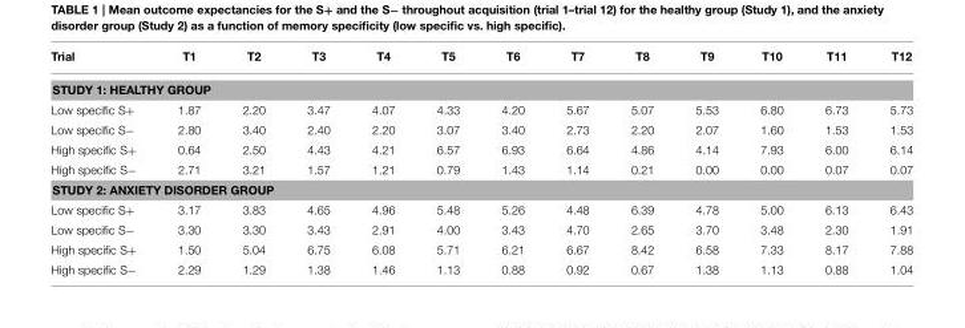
<table><thead><tr><td>Trial</td><td>T1</td><td>T2</td><td>T3</td><td>T4</td><td>T5</td><td>T6</td><td>T7</td><td>T8</td><td>T9</td><td>T10</td><td>T11</td><td>T12</td></tr></thead><tbody><tr><td colspan="13">STUDY 1: HEALTHY GROUP</td></tr><tr><td>Low specific S+</td><td>1.87</td><td>2.20</td><td>3.47</td><td>4.07</td><td>4.33</td><td>4.20</td><td>5.67</td><td>5.07</td><td>5.53</td><td>6.80</td><td>6.73</td><td>5.73</td></tr><tr><td>Low specific S−</td><td>2.80</td><td>3.40</td><td>2.40</td><td>2.20</td><td>3.07</td><td>3.40</td><td>2.73</td><td>2.20</td><td>2.07</td><td>1.60</td><td>1.53</td><td>1.53</td></tr><tr><td>High specific S+</td><td>0.64</td><td>2.50</td><td>4.43</td><td>4.21</td><td>6.57</td><td>6.93</td><td>6.64</td><td>4.86</td><td>4.14</td><td>7.93</td><td>6.00</td><td>6.14</td></tr><tr><td>High specific S−</td><td>2.71</td><td>3.21</td><td>1.57</td><td>1.21</td><td>0.79</td><td>1.43</td><td>1.14</td><td>0.21</td><td>0.00</td><td>0.00</td><td>0.07</td><td>0.07</td></tr><tr><td colspan="13">STUDY 2: ANXIETY DISORDER GROUP</td></tr><tr><td>Low specific S+</td><td>3.17</td><td>3.83</td><td>4.65</td><td>4.96</td><td>5.48</td><td>5.26</td><td>4.48</td><td>6.39</td><td>4.78</td><td>5.00</td><td>6.13</td><td>6.43</td></tr><tr><td>Low specific S−</td><td>3.30</td><td>3.30</td><td>3.43</td><td>2.91</td><td>4.00</td><td>3.43</td><td>4.70</td><td>2.65</td><td>3.70</td><td>3.48</td><td>2.30</td><td>1.91</td></tr><tr><td>High specific S+</td><td>1.50</td><td>5.04</td><td>6.75</td><td>6.08</td><td>5.71</td><td>6.21</td><td>6.67</td><td>8.42</td><td>6.58</td><td>7.33</td><td>8.17</td><td>7.88</td></tr><tr><td>High specific S−</td><td>2.29</td><td>1.29</td><td>1.38</td><td>1.46</td><td>1.13</td><td>0.88</td><td>0.92</td><td>0.67</td><td>1.38</td><td>1.13</td><td>0.88</td><td>1.04</td></tr></tbody></table>